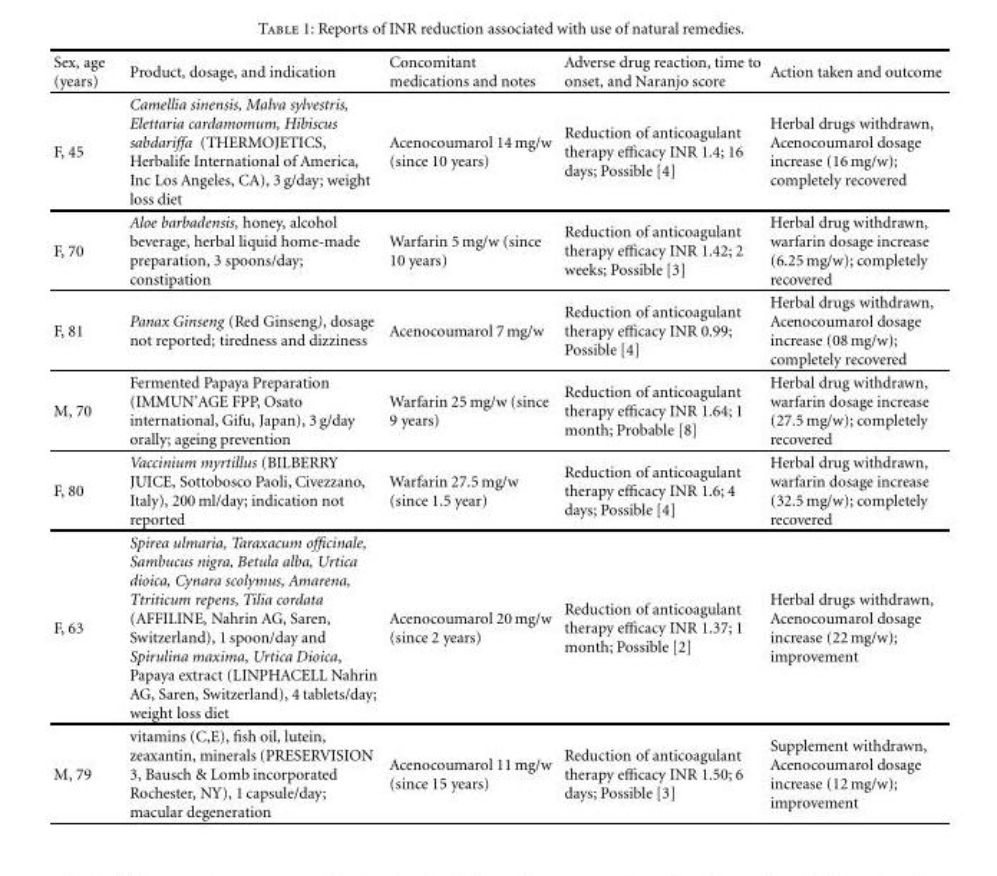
<table><thead><tr><td>Sex, age (years)</td><td>Product, dosage, and indication</td><td>Concomitant medications and notes</td><td>Adverse drug reaction, time to onset, and Naranjo score</td><td>Action taken and outcome</td></tr></thead><tbody><tr><td>F, 45</td><td>Camellia sinensis, Malva sylvestris, Elettaria cardamomum, Hibiscus sabdariffa (THERMOJETICS, Herbalife International of America, Inc Los Angeles, CA), 3 g/day; weight loss diet</td><td>Acenocoumarol 14 mg/w (since 10 years)</td><td>Reduction of anticoagulant therapy efficacy INR 1.4; 16 days; Possible [4]</td><td>Herbal drugs withdrawn, Acenocoumarol dosage increase (16 mg/w); completely recovered</td></tr><tr><td>F, 70</td><td>Aloe barbadensis, honey, alcohol beverage, herbal liquid home-made preparation, 3 spoons/day; constipation</td><td>Warfarin 5 mg/w (since 10 years)</td><td>Reduction of anticoagulant therapy efficacy INR 1.42; 2 weeks; Possible [3]</td><td>Herbal drug withdrawn, warfarin dosage increase (6.25 mg/w); completely recovered</td></tr><tr><td>F, 81</td><td>Panax Ginseng (Red Ginseng), dosage not reported; tiredness and dizziness</td><td>Acenocoumarol 7 mg/w</td><td>Reduction of anticoagulant therapy efficacy INR 0.99; Possible [4]</td><td>Herbal drugs withdrawn, Acenocoumarol dosage increase (08 mg/w); completely recovered</td></tr><tr><td>M, 70</td><td>Fermented Papaya Preparation (IMMUN’AGE FPP, Osato international, Gifu, Japan), 3 g/day orally; ageing prevention</td><td>Warfarin 25 mg/w (since 9 years)</td><td>Reduction of anticoagulant therapy efficacy INR 1.64; 1 month; Probable [8]</td><td>Herbal drug withdrawn, warfarin dosage increase (27.5 mg/w); completely recovered</td></tr><tr><td>F, 80</td><td>Vaccinium myrtillus (BILBERRY JUICE, Sottobosco Paoli, Civezzano, Italy), 200 ml/day; indication not reported</td><td>Warfarin 27.5 mg/w (since 1.5 year)</td><td>Reduction of anticoagulant therapy efficacy INR 1.6; 4 days; Possible [4]</td><td>Herbal drug withdrawn, warfarin dosage increase (32.5 mg/w); completely recovered</td></tr><tr><td>F, 63</td><td>Spirea ulmaria, Taraxacum officinale, Sambucus nigra, Betula alba, Urtica dioica, Cynara scolymus, Amarena, Ttriticum repens, Tilia cordata (AFFILINE, Nahrin AG, Saren, Switzerland), 1 spoon/day and Spirulina maxima, Urtica Dioica, Papaya extract (LINPHACELL Nahrin AG, Saren, Switzerland), 4 tablets/day; weight loss diet</td><td>Acenocoumarol 20 mg/w (since 2 years)</td><td>Reduction of anticoagulant therapy efficacy INR 1.37; 1 month; Possible [2]</td><td>Herbal drugs withdrawn, Acenocoumarol dosage increase (22 mg/w); improvement</td></tr><tr><td>M, 79</td><td>vitamins (C,E), fish oil, lutein, zeaxantin, minerals (PRESERVISION 3, Bausch &amp; Lomb incorporated Rochester, NY), 1 capsule/day; macular degeneration</td><td>Acenocoumarol 11 mg/w (since 15 years)</td><td>Reduction of anticoagulant therapy efficacy INR 1.50; 6 days; Possible [3]</td><td>Supplement withdrawn, Acenocoumarol dosage increase (12 mg/w); improvement</td></tr></tbody></table>